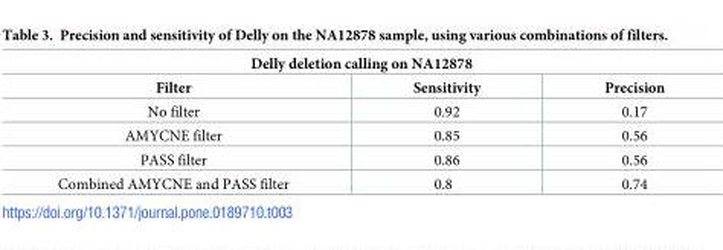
<table><thead><tr><td colspan="3">Delly deletion calling on NA12878</td></tr><tr><td>Filter</td><td>Sensitivity</td><td>Precision</td></tr></thead><tbody><tr><td>No filter</td><td>0.92</td><td>0.17</td></tr><tr><td>AMYCNE filter</td><td>0.85</td><td>0.56</td></tr><tr><td>PASS filter</td><td>0.86</td><td>0.56</td></tr><tr><td>Combined AMYCNE and PASS filter</td><td>0.8</td><td>0.74</td></tr></tbody></table>